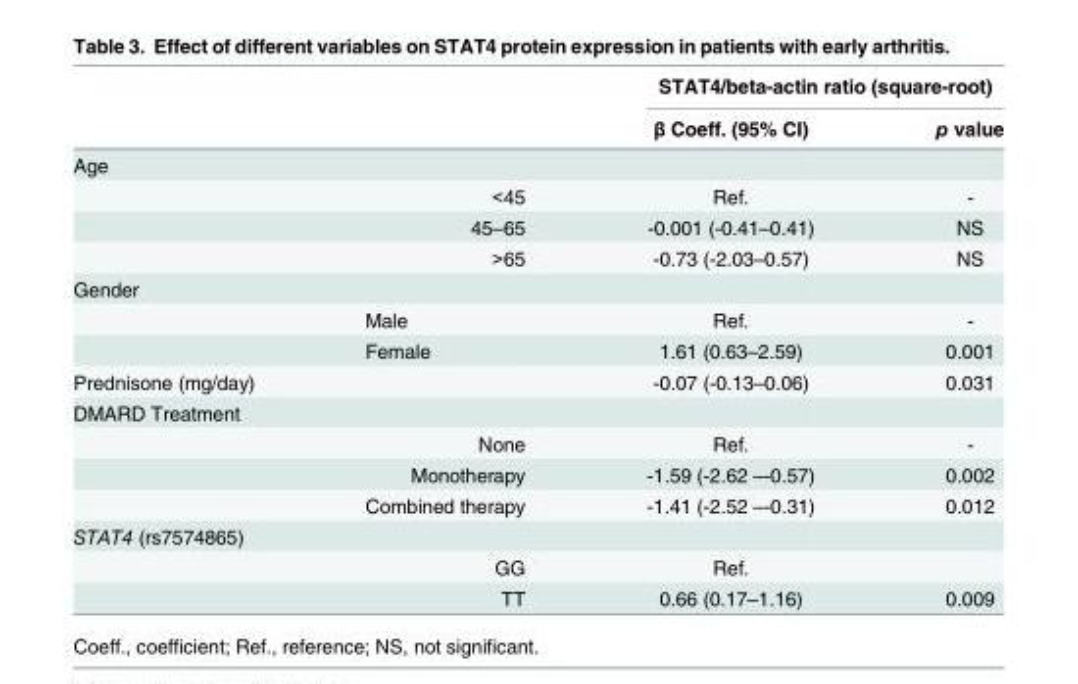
<table><thead><tr><td rowspan="2"></td><td rowspan="2"></td><td colspan="2">STAT4/beta-actin ratio (square-root)</td></tr><tr><td>β Coeff. (95% CI)</td><td>p value</td></tr></thead><tbody><tr><td colspan="4">Age</td></tr><tr><td></td><td>&lt;45</td><td>Ref.</td><td>-</td></tr><tr><td></td><td>45–65</td><td>-0.001 (-0.41–0.41)</td><td>NS</td></tr><tr><td></td><td>&gt;65</td><td>-0.73 (-2.03–0.57)</td><td>NS</td></tr><tr><td colspan="4">Gender</td></tr><tr><td></td><td>Male</td><td>Ref.</td><td>-</td></tr><tr><td></td><td>Female</td><td>1.61 (0.63–2.59)</td><td>0.001</td></tr><tr><td colspan="2">Prednisone (mg/day)</td><td>-0.07 (-0.13–0.06)</td><td>0.031</td></tr><tr><td colspan="4">DMARD Treatment</td></tr><tr><td></td><td>None</td><td>Ref.</td><td>-</td></tr><tr><td></td><td>Monotherapy</td><td>-1.59 (-2.62 –-0.57)</td><td>0.002</td></tr><tr><td></td><td>Combined therapy</td><td>-1.41 (-2.52 –-0.31)</td><td>0.012</td></tr><tr><td colspan="4">STAT4 (rs7574865)</td></tr><tr><td></td><td>GG</td><td>Ref.</td><td></td></tr><tr><td></td><td>TT</td><td>0.66 (0.17–1.16)</td><td>0.009</td></tr></tbody></table>